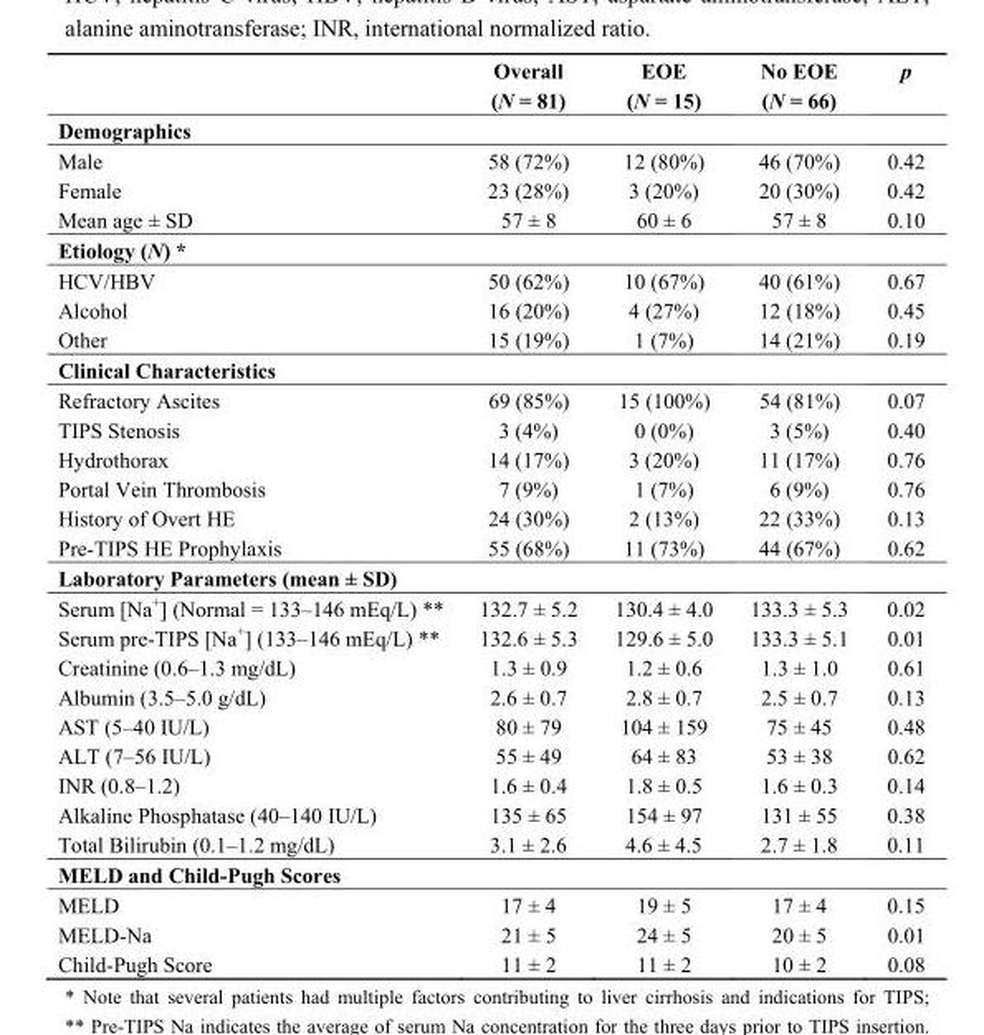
<table><thead><tr><td rowspan="2"></td><td rowspan="2">Overall (N = 81)</td><td rowspan="2">EOE (N = 15)</td><td rowspan="2">No EOE (N = 66)</td><td rowspan="2">p</td></tr><tr></tr></thead><tbody><tr><td colspan="5">Demographics</td></tr><tr><td>Male</td><td>58 (72%)</td><td>12 (80%)</td><td>46 (70%)</td><td>0.42</td></tr><tr><td>Female</td><td>23 (28%)</td><td>3 (20%)</td><td>20 (30%)</td><td>0.42</td></tr><tr><td>Mean age ± SD</td><td>57 ± 8</td><td>60 ± 6</td><td>57 ± 8</td><td>0.10</td></tr><tr><td colspan="5">Etiology (N) *</td></tr><tr><td>HCV/HBV</td><td>50 (62%)</td><td>10 (67%)</td><td>40 (61%)</td><td>0.67</td></tr><tr><td>Alcohol</td><td>16 (20%)</td><td>4 (27%)</td><td>12 (18%)</td><td>0.45</td></tr><tr><td>Other</td><td>15 (19%)</td><td>1 (7%)</td><td>14 (21%)</td><td>0.19</td></tr><tr><td colspan="5">Clinical Characteristics</td></tr><tr><td>Refractory Ascites</td><td>69 (85%)</td><td>15 (100%)</td><td>54 (81%)</td><td>0.07</td></tr><tr><td>TIPS Stenosis</td><td>3 (4%)</td><td>0 (0%)</td><td>3 (5%)</td><td>0.40</td></tr><tr><td>Hydrothorax</td><td>14 (17%)</td><td>3 (20%)</td><td>11 (17%)</td><td>0.76</td></tr><tr><td>Portal Vein Thrombosis</td><td>7 (9%)</td><td>1 (7%)</td><td>6 (9%)</td><td>0.76</td></tr><tr><td>History of Overt HE</td><td>24 (30%)</td><td>2 (13%)</td><td>22 (33%)</td><td>0.13</td></tr><tr><td>Pre-TIPS HE Prophylaxis</td><td>55 (68%)</td><td>11 (73%)</td><td>44 (67%)</td><td>0.62</td></tr><tr><td colspan="5">Laboratory Parameters (mean ± SD)</td></tr><tr><td>Serum [Na<sup>+</sup>] (Normal = 133–146 mEq/L) **</td><td>132.7 ± 5.2</td><td>130.4 ± 4.0</td><td>133.3 ± 5.3</td><td>0.02</td></tr><tr><td>Serum pre-TIPS [Na<sup>+</sup>] (133–146 mEq/L) **</td><td>132.6 ± 5.3</td><td>129.6 ± 5.0</td><td>133.3 ± 5.1</td><td>0.01</td></tr><tr><td>Creatinine (0.6–1.3 mg/dL)</td><td>1.3 ± 0.9</td><td>1.2 ± 0.6</td><td>1.3 ± 1.0</td><td>0.61</td></tr><tr><td>Albumin (3.5–5.0 g/dL)</td><td>2.6 ± 0.7</td><td>2.8 ± 0.7</td><td>2.5 ± 0.7</td><td>0.13</td></tr><tr><td>AST (5–40 IU/L)</td><td>80 ± 79</td><td>104 ± 159</td><td>75 ± 45</td><td>0.48</td></tr><tr><td>ALT (7–56 IU/L)</td><td>55 ± 49</td><td>64 ± 83</td><td>53 ± 38</td><td>0.62</td></tr><tr><td>INR (0.8–1.2)</td><td>1.6 ± 0.4</td><td>1.8 ± 0.5</td><td>1.6 ± 0.3</td><td>0.14</td></tr><tr><td>Alkaline Phosphatase (40–140 IU/L)</td><td>135 ± 65</td><td>154 ± 97</td><td>131 ± 55</td><td>0.38</td></tr><tr><td>Total Bilirubin (0.1–1.2 mg/dL)</td><td>3.1 ± 2.6</td><td>4.6 ± 4.5</td><td>2.7 ± 1.8</td><td>0.11</td></tr><tr><td colspan="5">MELD and Child-Pugh Scores</td></tr><tr><td>MELD</td><td>17 ± 4</td><td>19 ± 5</td><td>17 ± 4</td><td>0.15</td></tr><tr><td>MELD-Na</td><td>21 ± 5</td><td>24 ± 5</td><td>20 ± 5</td><td>0.01</td></tr><tr><td>Child-Pugh Score</td><td>11 ± 2</td><td>11 ± 2</td><td>10 ± 2</td><td>0.08</td></tr></tbody></table>